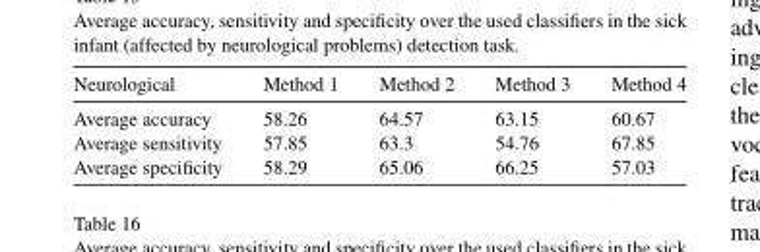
<table><thead><tr><td>Neurological</td><td>Method 1</td><td>Method 2</td><td>Method 3</td><td>Method 4</td></tr></thead><tbody><tr><td>Average accuracy</td><td>58.26</td><td>64.57</td><td>63.15</td><td>60.67</td></tr><tr><td>Average sensitivity</td><td>57.85</td><td>63.3</td><td>54.76</td><td>67.85</td></tr><tr><td>Average specificity</td><td>58.29</td><td>65.06</td><td>66.25</td><td>57.03</td></tr></tbody></table>